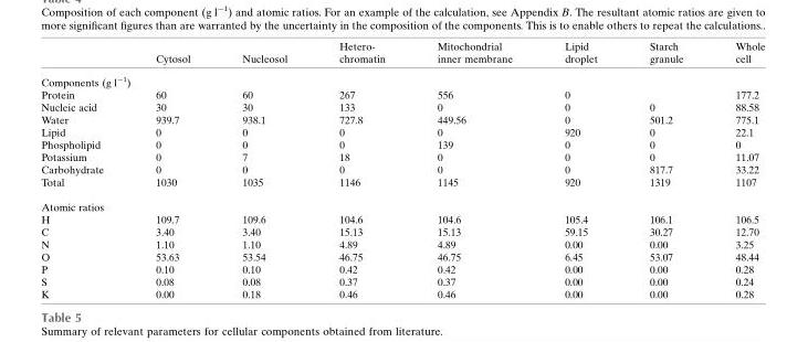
<table><thead><tr><td></td><td>Cytosol</td><td>Nucleosol</td><td>Hetero- chromatin</td><td>Mitochondrial inner membrane</td><td>Lipid droplet</td><td>Starch granule</td><td>Whole cell</td></tr></thead><tbody><tr><td colspan="8">Components (g l<sup>−1</sup>)</td></tr><tr><td>Protein</td><td>60</td><td>60</td><td>267</td><td>556</td><td>0</td><td></td><td>177.2</td></tr><tr><td>Nucleic acid</td><td>30</td><td>30</td><td>133</td><td>0</td><td>0</td><td>0</td><td>88.58</td></tr><tr><td>Water</td><td>939.7</td><td>938.1</td><td>727.8</td><td>449.56</td><td>0</td><td>501.2</td><td>775.1</td></tr><tr><td>Lipid</td><td>0</td><td>0</td><td>0</td><td>0</td><td>920</td><td>0</td><td>22.1</td></tr><tr><td>Phospholipid</td><td>0</td><td>0</td><td>0</td><td>139</td><td>0</td><td>0</td><td>0</td></tr><tr><td>Potassium</td><td>0</td><td>7</td><td>18</td><td>0</td><td>0</td><td>0</td><td>11.07</td></tr><tr><td>Carbohydrate</td><td>0</td><td>0</td><td>0</td><td>0</td><td>0</td><td>817.7</td><td>33.22</td></tr><tr><td>Total</td><td>1030</td><td>1035</td><td>1146</td><td>1145</td><td>920</td><td>1319</td><td>1107</td></tr><tr><td colspan="8">Atomic ratios</td></tr><tr><td>H</td><td>109.7</td><td>109.6</td><td>104.6</td><td>104.6</td><td>105.4</td><td>106.1</td><td>106.5</td></tr><tr><td>C</td><td>3.40</td><td>3.40</td><td>15.13</td><td>15.13</td><td>59.15</td><td>30.27</td><td>12.70</td></tr><tr><td>N</td><td>1.10</td><td>1.10</td><td>4.89</td><td>4.89</td><td>0.00</td><td>0.00</td><td>3.25</td></tr><tr><td>O</td><td>53.63</td><td>53.54</td><td>46.75</td><td>46.75</td><td>6.45</td><td>53.07</td><td>48.44</td></tr><tr><td>P</td><td>0.10</td><td>0.10</td><td>0.42</td><td>0.42</td><td>0.00</td><td>0.00</td><td>0.28</td></tr><tr><td>S</td><td>0.08</td><td>0.08</td><td>0.37</td><td>0.37</td><td>0.00</td><td>0.00</td><td>0.24</td></tr><tr><td>K</td><td>0.00</td><td>0.18</td><td>0.46</td><td>0.46</td><td>0.00</td><td>0.00</td><td>0.28</td></tr></tbody></table>